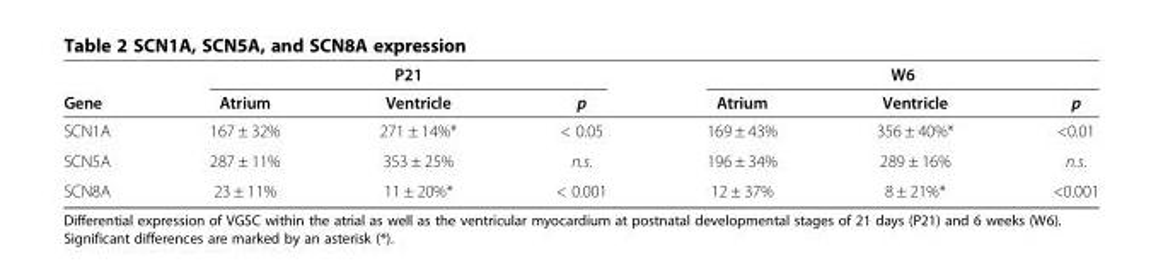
<table><thead><tr><td rowspan="2">Gene</td><td colspan="3">P21</td><td colspan="3">W6</td></tr><tr><td>Atrium</td><td>Ventricle</td><td>p</td><td>Atrium</td><td>Ventricle</td><td>p</td></tr></thead><tbody><tr><td>SCN1A</td><td>167 ± 32%</td><td>271 ± 14%*</td><td>&lt; 0.05</td><td>169 ± 43%</td><td>356 ± 40%*</td><td>&lt;0.01</td></tr><tr><td>SCN5A</td><td>287 ± 11%</td><td>353 ± 25%</td><td>n.s.</td><td>196 ± 34%</td><td>289 ± 16%</td><td>n.s.</td></tr><tr><td>SCN8A</td><td>23 ± 11%</td><td>11 ± 20%*</td><td>&lt; 0.001</td><td>12 ± 37%</td><td>8 ± 21%*</td><td>&lt;0.001</td></tr></tbody></table>